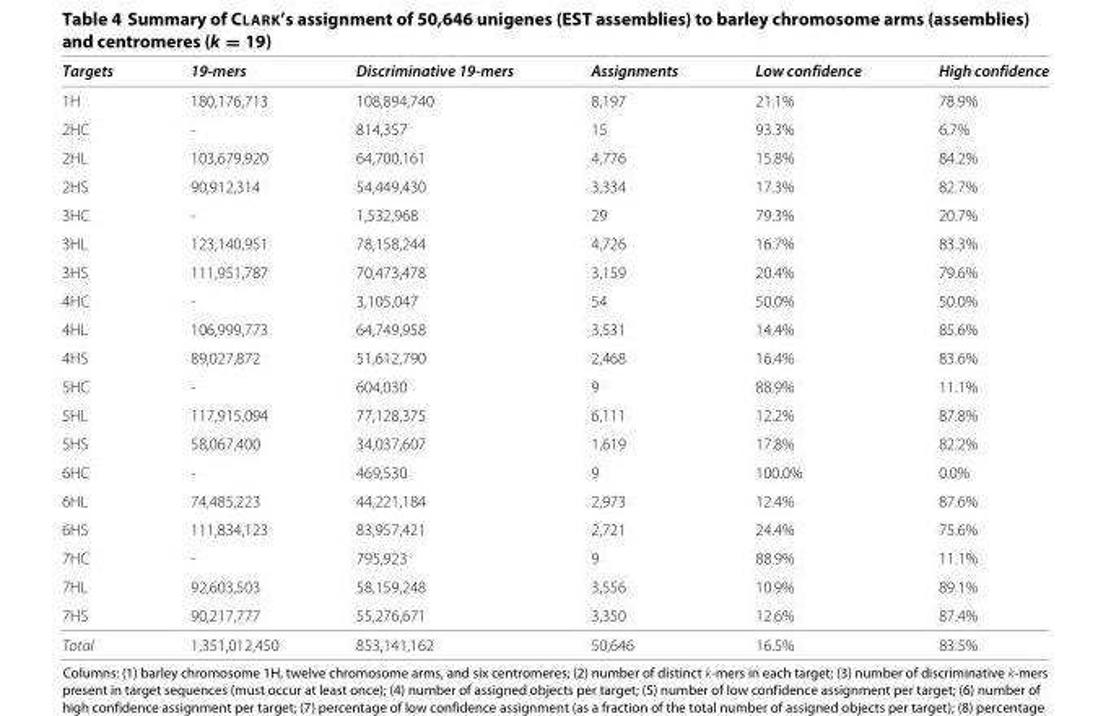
<table><thead><tr><td>Targets</td><td>19-mers</td><td>Discriminative 19-mers</td><td>Assignments</td><td>Low confidence</td><td>High confidence</td></tr></thead><tbody><tr><td>1H</td><td>180,176,713</td><td>108,894,740</td><td>8,197</td><td>21.1%</td><td>78.9%</td></tr><tr><td>2HC</td><td>-</td><td>814,357</td><td>15</td><td>93.3%</td><td>6.7%</td></tr><tr><td>2HL</td><td>103,679,920</td><td>64,700,161</td><td>4,776</td><td>15.8%</td><td>84.2%</td></tr><tr><td>2HS</td><td>90,912,314</td><td>54,449,430</td><td>3,334</td><td>17.3%</td><td>82.7%</td></tr><tr><td>3HC</td><td>-</td><td>1,532,968</td><td>29</td><td>79.3%</td><td>20.7%</td></tr><tr><td>3HL</td><td>123,140,951</td><td>78,158,244</td><td>4,726</td><td>16.7%</td><td>83.3%</td></tr><tr><td>3HS</td><td>111,951,787</td><td>70,473,478</td><td>3,159</td><td>20.4%</td><td>79.6%</td></tr><tr><td>4HC</td><td>-</td><td>3,105,047</td><td>54</td><td>50.0%</td><td>50.0%</td></tr><tr><td>4HL</td><td>106,999,773</td><td>64,749,958</td><td>3,531</td><td>14.4%</td><td>85.6%</td></tr><tr><td>4HS</td><td>89,027,872</td><td>51,612,790</td><td>2,468</td><td>16.4%</td><td>83.6%</td></tr><tr><td>5HC</td><td>-</td><td>604,030</td><td>9</td><td>88.9%</td><td>11.1%</td></tr><tr><td>5HL</td><td>117,915,094</td><td>77,128,375</td><td>6,111</td><td>12.2%</td><td>87.8%</td></tr><tr><td>5HS</td><td>58,067,400</td><td>34,037,607</td><td>1,619</td><td>17.8%</td><td>82.2%</td></tr><tr><td>6HC</td><td>-</td><td>469,530</td><td>9</td><td>100.0%</td><td>0.0%</td></tr><tr><td>6HL</td><td>74,485,223</td><td>44,221,184</td><td>2,973</td><td>12.4%</td><td>87.6%</td></tr><tr><td>6HS</td><td>111,834,123</td><td>83,957,421</td><td>2,721</td><td>24.4%</td><td>75.6%</td></tr><tr><td>7HC</td><td>-</td><td>795,923</td><td>9</td><td>88.9%</td><td>11.1%</td></tr><tr><td>7HL</td><td>92,603,503</td><td>58,159,248</td><td>3,556</td><td>10.9%</td><td>89.1%</td></tr><tr><td>7HS</td><td>90,217,777</td><td>55,276,671</td><td>3,350</td><td>12.6%</td><td>87.4%</td></tr><tr><td>Total</td><td>1,351,012,450</td><td>853,141,162</td><td>50,646</td><td>16.5%</td><td>83.5%</td></tr></tbody></table>